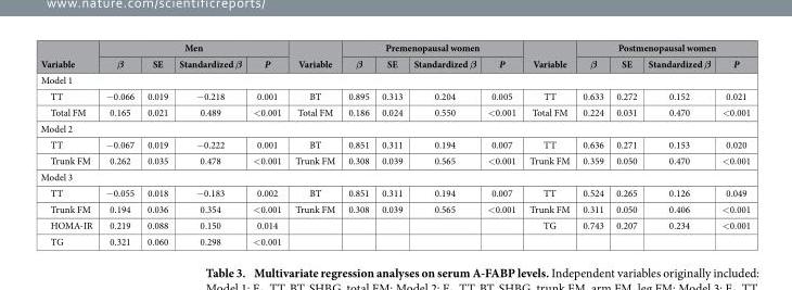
<table><thead><tr><td rowspan="2">Variable</td><td colspan="4">Men</td><td rowspan="2">Variable</td><td colspan="4">Premenopausal women</td><td rowspan="2">Variable</td><td colspan="4">Postmenopausal women</td></tr><tr><td>β</td><td>SE</td><td>Standardized β</td><td>P</td><td>β</td><td>SE</td><td>Standardized β</td><td>P</td><td>β</td><td>SE</td><td>Standardized β</td><td>P</td></tr></thead><tbody><tr><td colspan="15">Model 1</td></tr><tr><td>TT</td><td>− 0.066</td><td>0.019</td><td>− 0.218</td><td>0.001</td><td>BT</td><td>0.895</td><td>0.313</td><td>0.204</td><td>0.005</td><td>TT</td><td>0.633</td><td>0.272</td><td>0.152</td><td>0.021</td></tr><tr><td>Total FM</td><td>0.165</td><td>0.021</td><td>0.489</td><td>&lt; 0.001</td><td>Total FM</td><td>0.186</td><td>0.024</td><td>0.550</td><td>&lt; 0.001</td><td>Total FM</td><td>0.224</td><td>0.031</td><td>0.470</td><td>&lt; 0.001</td></tr><tr><td colspan="15">Model 2</td></tr><tr><td>TT</td><td>− 0.067</td><td>0.019</td><td>− 0.222</td><td>0.001</td><td>BT</td><td>0.851</td><td>0.311</td><td>0.194</td><td>0.007</td><td>TT</td><td>0.636</td><td>0.271</td><td>0.153</td><td>0.020</td></tr><tr><td>Trunk FM</td><td>0.262</td><td>0.035</td><td>0.478</td><td>&lt; 0.001</td><td>Trunk FM</td><td>0.308</td><td>0.039</td><td>0.565</td><td>&lt; 0.001</td><td>Trunk FM</td><td>0.359</td><td>0.050</td><td>0.470</td><td>&lt; 0.001</td></tr><tr><td colspan="15">Model 3</td></tr><tr><td>TT</td><td>− 0.055</td><td>0.018</td><td>− 0.183</td><td>0.002</td><td>BT</td><td>0.851</td><td>0.311</td><td>0.194</td><td>0.007</td><td>TT</td><td>0.524</td><td>0.265</td><td>0.126</td><td>0.049</td></tr><tr><td>Trunk FM</td><td>0.194</td><td>0.036</td><td>0.354</td><td>&lt; 0.001</td><td>Trunk FM</td><td>0.308</td><td>0.039</td><td>0.565</td><td>&lt; 0.001</td><td>Trunk FM</td><td>0.311</td><td>0.050</td><td>0.406</td><td>&lt; 0.001</td></tr><tr><td>HOMA-IR</td><td>0.219</td><td>0.088</td><td>0.150</td><td>0.014</td><td></td><td></td><td></td><td></td><td></td><td>TG</td><td>0.743</td><td>0.207</td><td>0.234</td><td>&lt; 0.001</td></tr><tr><td>TG</td><td>0.321</td><td>0.060</td><td>0.298</td><td>&lt; 0.001</td><td></td><td></td><td></td><td></td><td></td><td></td><td></td><td></td><td></td><td></td></tr></tbody></table>